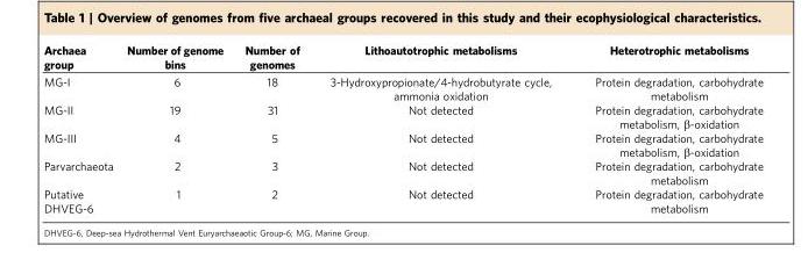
<table><thead><tr><td>Archaea group</td><td>Number of genome bins</td><td>Number of genomes</td><td>Lithoautotrophic metabolisms</td><td>Heterotrophic metabolisms</td></tr></thead><tbody><tr><td>MG-I</td><td>6</td><td>18</td><td>3-Hydroxypropionate/4-hydrobutyrate cycle, ammonia oxidation</td><td>Protein degradation, carbohydrate metabolism</td></tr><tr><td>MG-II</td><td>19</td><td>31</td><td>Not detected</td><td>Protein degradation, carbohydrate metabolism, β-oxidation</td></tr><tr><td>MG-III</td><td>4</td><td>5</td><td>Not detected</td><td>Protein degradation, carbohydrate metabolism, β-oxidation</td></tr><tr><td>Parvarchaeota</td><td>2</td><td>3</td><td>Not detected</td><td>Protein degradation, carbohydrate metabolism</td></tr><tr><td>Putative DHVEG-6</td><td>1</td><td>2</td><td>Not detected</td><td>Protein degradation, carbohydrate metabolism</td></tr></tbody></table>